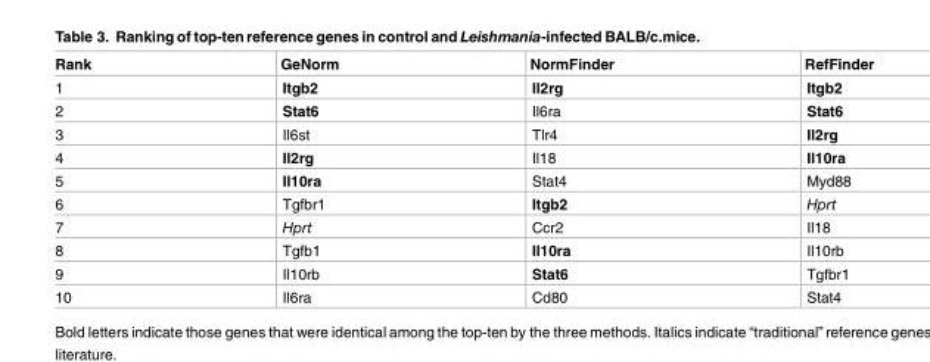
<table><thead><tr><td>Rank</td><td>GeNorm</td><td>NormFinder</td><td>RefFinder</td></tr></thead><tbody><tr><td>1</td><td>Itgb2</td><td>Il2rg</td><td>Itgb2</td></tr><tr><td>2</td><td>Stat6</td><td>Il6ra</td><td>Stat6</td></tr><tr><td>3</td><td>Il6st</td><td>Tlr4</td><td>Il2rg</td></tr><tr><td>4</td><td>Il2rg</td><td>Il18</td><td>Il10ra</td></tr><tr><td>5</td><td>Il10ra</td><td>Stat4</td><td>Myd88</td></tr><tr><td>6</td><td>Tgfbr1</td><td>Itgb2</td><td>Hprt</td></tr><tr><td>7</td><td>Hprt</td><td>Ccr2</td><td>Il18</td></tr><tr><td>8</td><td>Tgfb1</td><td>Il10ra</td><td>Il10rb</td></tr><tr><td>9</td><td>Il10rb</td><td>Stat6</td><td>Tgfbr1</td></tr><tr><td>10</td><td>Il6ra</td><td>Cd80</td><td>Stat4</td></tr></tbody></table>